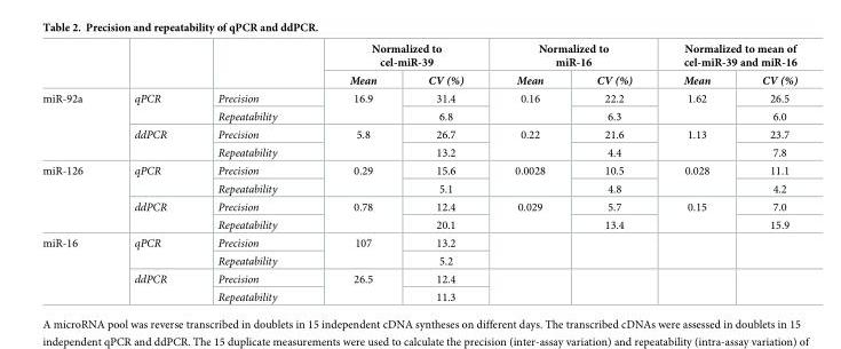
<table><thead><tr><td rowspan="2"></td><td rowspan="2"></td><td rowspan="2"></td><td colspan="2">Normalized to cel-miR-39</td><td colspan="2">Normalized to miR-16</td><td colspan="2">Normalized to mean of cel-miR-39 and miR-16</td></tr><tr><td>Mean</td><td>CV (%)</td><td>Mean</td><td>CV (%)</td><td>Mean</td><td>CV (%)</td></tr></thead><tbody><tr><td rowspan="4">miR-92a</td><td rowspan="2">qPCR</td><td>Precision</td><td rowspan="2">16.9</td><td>31.4</td><td rowspan="2">0.16</td><td>22.2</td><td rowspan="2">1.62</td><td>26.5</td></tr><tr><td>Repeatability</td><td>6.8</td><td>6.3</td><td>6.0</td></tr><tr><td rowspan="2">ddPCR</td><td>Precision</td><td rowspan="2">5.8</td><td>26.7</td><td rowspan="2">0.22</td><td>21.6</td><td rowspan="2">1.13</td><td>23.7</td></tr><tr><td>Repeatability</td><td>13.2</td><td>4.4</td><td>7.8</td></tr><tr><td rowspan="4">miR-126</td><td rowspan="2">qPCR</td><td>Precision</td><td rowspan="2">0.29</td><td>15.6</td><td rowspan="2">0.0028</td><td>10.5</td><td rowspan="2">0.028</td><td>11.1</td></tr><tr><td>Repeatability</td><td>5.1</td><td>4.8</td><td>4.2</td></tr><tr><td rowspan="2">ddPCR</td><td>Precision</td><td rowspan="2">0.78</td><td>12.4</td><td rowspan="2">0.029</td><td>5.7</td><td rowspan="2">0.15</td><td>7.0</td></tr><tr><td>Repeatability</td><td>20.1</td><td>13.4</td><td>15.9</td></tr><tr><td rowspan="4">miR-16</td><td rowspan="2">qPCR</td><td>Precision</td><td rowspan="2">107</td><td>13.2</td><td rowspan="2"></td><td rowspan="2"></td><td rowspan="2"></td><td rowspan="2"></td></tr><tr><td>Repeatability</td><td>5.2</td></tr><tr><td rowspan="2">ddPCR</td><td>Precision</td><td rowspan="2">26.5</td><td>12.4</td><td rowspan="2"></td><td rowspan="2"></td><td rowspan="2"></td><td rowspan="2"></td></tr><tr><td>Repeatability</td><td>11.3</td></tr></tbody></table>